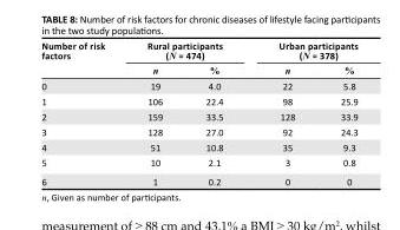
<table><thead><tr><td rowspan="2">Number of risk factors</td><td colspan="2">Rural participants (N = 474)</td><td colspan="2">Urban participants (N = 378)</td></tr><tr><td>n</td><td>%</td><td>n</td><td>%</td></tr></thead><tbody><tr><td>0</td><td>19</td><td>4.0</td><td>22</td><td>5.8</td></tr><tr><td>1</td><td>106</td><td>22.4</td><td>98</td><td>25.9</td></tr><tr><td>2</td><td>159</td><td>33.5</td><td>128</td><td>33.9</td></tr><tr><td>3</td><td>128</td><td>27.0</td><td>92</td><td>24.3</td></tr><tr><td>4</td><td>51</td><td>10.8</td><td>35</td><td>9.3</td></tr><tr><td>5</td><td>10</td><td>2.1</td><td>3</td><td>0.8</td></tr><tr><td>6</td><td>1</td><td>0.2</td><td>0</td><td>0</td></tr></tbody></table>